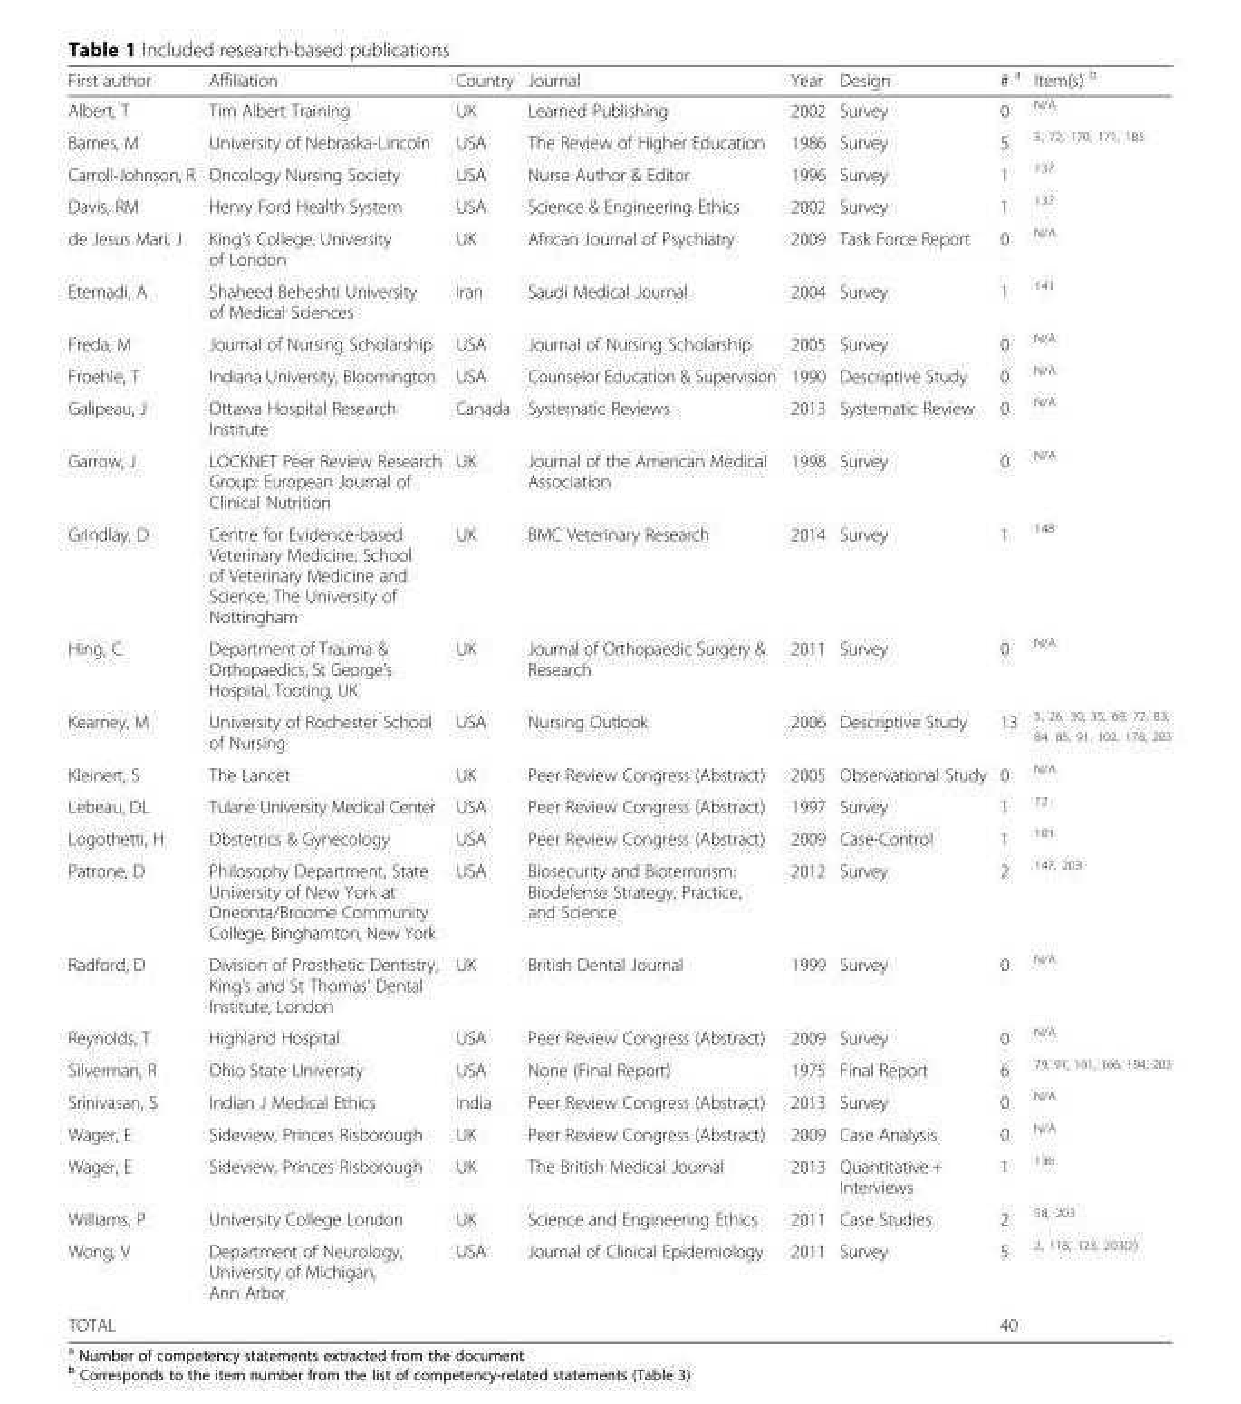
<table><thead><tr><td>First author</td><td>Affiliation</td><td>Country</td><td>Journal</td><td>Year</td><td>Design</td><td># <sup>a</sup></td><td>Item(s) <sup>b</sup></td></tr></thead><tbody><tr><td>Albert, T</td><td>Tim Albert Training</td><td>UK</td><td>Learned Publishing</td><td>2002</td><td>Survey</td><td>0</td><td><sup>N/A</sup></td></tr><tr><td>Barnes, M</td><td>University of Nebraska-Lincoln</td><td>USA</td><td>The Review of Higher Education</td><td>1986</td><td>Survey</td><td>5</td><td><sup>5, 72, 170, 171, 185</sup></td></tr><tr><td>Carroll-Johnson, R</td><td>Oncology Nursing Society</td><td>USA</td><td>Nurse Author &amp; Editor</td><td>1996</td><td>Survey</td><td>1</td><td><sup>137</sup></td></tr><tr><td>Davis, RM</td><td>Henry Ford Health System</td><td>USA</td><td>Science &amp; Engineering Ethics</td><td>2002</td><td>Survey</td><td>1</td><td><sup>137</sup></td></tr><tr><td>de Jesus Mari, J</td><td>King’s College, University of London</td><td>UK</td><td>African Journal of Psychiatry</td><td>2009</td><td>Task Force Report</td><td>0</td><td><sup>N/A</sup></td></tr><tr><td>Etemadi, A</td><td>Shaheed Beheshti University of Medical Sciences</td><td>Iran</td><td>Saudi Medical Journal</td><td>2004</td><td>Survey</td><td>1</td><td><sup>141</sup></td></tr><tr><td>Freda, M</td><td>Journal of Nursing Scholarship</td><td>USA</td><td>Journal of Nursing Scholarship</td><td>2005</td><td>Survey</td><td>0</td><td><sup>N/A</sup></td></tr><tr><td>Froehle, T</td><td>Indiana University, Bloomington</td><td>USA</td><td>Counselor Education &amp; Supervision</td><td>1990</td><td>Descriptive Study</td><td>0</td><td><sup>N/A</sup></td></tr><tr><td>Galipeau, J</td><td>Ottawa Hospital Research Institute</td><td>Canada</td><td>Systematic Reviews</td><td>2013</td><td>Systematic Review</td><td>0</td><td><sup>N/A</sup></td></tr><tr><td>Garrow, J</td><td>LOCKNET Peer Review Research Group: European Journal of Clinical Nutrition</td><td>UK</td><td>Journal of the American Medical Association</td><td>1998</td><td>Survey</td><td>0</td><td><sup>N/A</sup></td></tr><tr><td>Grindlay, D</td><td>Centre for Evidence-based Veterinary Medicine, School of Veterinary Medicine and Science, The University of Nottingham</td><td>UK</td><td>BMC Veterinary Research</td><td>2014</td><td>Survey</td><td>1</td><td><sup>148</sup></td></tr><tr><td>Hing, C</td><td>Department of Trauma &amp; Orthopaedics, St George’s Hospital, Tooting, UK</td><td>UK</td><td>Journal of Orthopaedic Surgery &amp; Research</td><td>2011</td><td>Survey</td><td>0</td><td><sup>N/A</sup></td></tr><tr><td>Kearney, M</td><td>University of Rochester School of Nursing</td><td>USA</td><td>Nursing Outlook</td><td>2006</td><td>Descriptive Study</td><td>13</td><td><sup>5, 26, 30, 35, 69, 72, 83, 84. 85, 91, 102, 178, 203</sup></td></tr><tr><td>Kleinert, S</td><td>The Lancet</td><td>UK</td><td>Peer Review Congress (Abstract)</td><td>2005</td><td>Observational Study</td><td>0</td><td><sup>N/A</sup></td></tr><tr><td>Lebeau, DL</td><td>Tulane University Medical Center</td><td>USA</td><td>Peer Review Congress (Abstract)</td><td>1997</td><td>Survey</td><td>1</td><td><sup>72</sup></td></tr><tr><td>Logothetti, H</td><td>Obstetrics &amp; Gynecology</td><td>USA</td><td>Peer Review Congress (Abstract)</td><td>2009</td><td>Case-Control</td><td>1</td><td><sup>101</sup></td></tr><tr><td>Patrone, D</td><td>Philosophy Department, State University of New York at Oneonta/Broome Community College, Binghamton, New York</td><td>USA</td><td>Biosecurity and Bioterrorism: Biodefense Strategy, Practice, and Science</td><td>2012</td><td>Survey</td><td>2</td><td><sup>147, 203</sup></td></tr><tr><td>Radford, D</td><td>Division of Prosthetic Dentistry, King’s and St Thomas’ Dental Institute, London</td><td>UK</td><td>British Dental Journal</td><td>1999</td><td>Survey</td><td>0</td><td><sup>N/A</sup></td></tr><tr><td>Reynolds, T</td><td>Highland Hospital</td><td>USA</td><td>Peer Review Congress (Abstract)</td><td>2009</td><td>Survey</td><td>0</td><td><sup>N/A</sup></td></tr><tr><td>Silverman, R</td><td>Ohio State University</td><td>USA</td><td>None (Final Report)</td><td>1975</td><td>Final Report</td><td>6</td><td><sup>79, 91, 101, 166, 194, 203</sup></td></tr><tr><td>Srinivasan, S</td><td>Indian J Medical Ethics</td><td>India</td><td>Peer Review Congress (Abstract)</td><td>2013</td><td>Survey</td><td>0</td><td><sup>N/A</sup></td></tr><tr><td>Wager, E</td><td>Sideview, Princes Risborough</td><td>UK</td><td>Peer Review Congress (Abstract)</td><td>2009</td><td>Case Analysis</td><td>0</td><td><sup>N/A</sup></td></tr><tr><td>Wager, E</td><td>Sideview, Princes Risborough</td><td>UK</td><td>The British Medical Journal</td><td>2013</td><td>Quantitative + Interviews</td><td>1</td><td><sup>136</sup></td></tr><tr><td>Williams, P</td><td>University College London</td><td>UK</td><td>Science and Engineering Ethics</td><td>2011</td><td>Case Studies</td><td>2</td><td><sup>58, 203</sup></td></tr><tr><td>Wong, V</td><td>Department of Neurology, University of Michigan, Ann Arbor</td><td>USA</td><td>Journal of Clinical Epidemiology</td><td>2011</td><td>Survey</td><td>5</td><td><sup>2, 118, 123, 203(2)</sup></td></tr><tr><td colspan="6">TOTAL</td><td>40</td><td></td></tr></tbody></table>